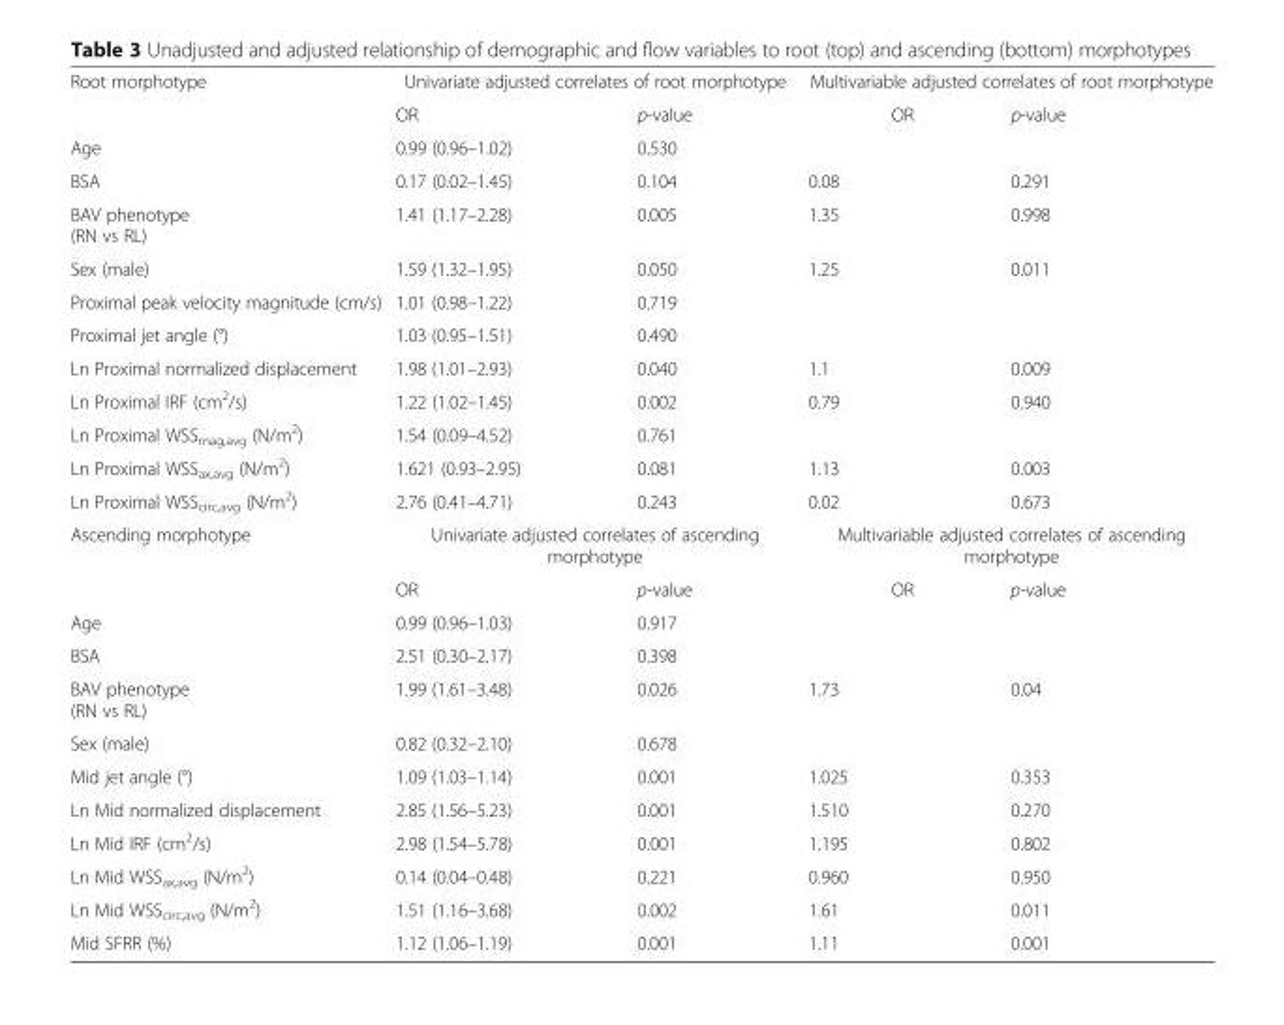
<table><tbody><tr><td rowspan="2">Root morphotype</td><td colspan="2">Univariate adjusted correlates of root morphotype</td><td colspan="2">Multivariable adjusted correlates of root morphotype</td></tr><tr><td>OR</td><td>p-value</td><td>OR</td><td>p-value</td></tr><tr><td>Age</td><td>0.99 (0.96–1.02)</td><td>0.530</td><td></td><td></td></tr><tr><td>BSA</td><td>0.17 (0.02–1.45)</td><td>0.104</td><td>0.08</td><td>0.291</td></tr><tr><td>BAV phenotype (RN vs RL)</td><td>1.41 (1.17–2.28)</td><td>0.005</td><td>1.35</td><td>0.998</td></tr><tr><td>Sex (male)</td><td>1.59 (1.32–1.95)</td><td>0.050</td><td>1.25</td><td>0.011</td></tr><tr><td>Proximal peak velocity magnitude (cm/s)</td><td>1.01 (0.98–1.22)</td><td>0.719</td><td></td><td></td></tr><tr><td>Proximal jet angle (°)</td><td>1.03 (0.95–1.51)</td><td>0.490</td><td></td><td></td></tr><tr><td>Ln Proximal normalized displacement</td><td>1.98 (1.01–2.93)</td><td>0.040</td><td>1.1</td><td>0.009</td></tr><tr><td>Ln Proximal IRF (cm<sup>2</sup>/s)</td><td>1.22 (1.02–1.45)</td><td>0.002</td><td>0.79</td><td>0.940</td></tr><tr><td>Ln Proximal WSS<sub>mag,avg</sub> (N/m<sup>2</sup>)</td><td>1.54 (0.09–4.52)</td><td>0.761</td><td></td><td></td></tr><tr><td>Ln Proximal WSS<sub>ax,avg</sub> (N/m<sup>2</sup>)</td><td>1.621 (0.93–2.95)</td><td>0.081</td><td>1.13</td><td>0.003</td></tr><tr><td>Ln Proximal WSS<sub>circ,avg</sub> (N/m<sup>2</sup>)</td><td>2.76 (0.41–4.71)</td><td>0.243</td><td>0.02</td><td>0.673</td></tr><tr><td rowspan="2">Ascending morphotype</td><td colspan="2">Univariate adjusted correlates of ascending morphotype</td><td colspan="2">Multivariable adjusted correlates of ascending morphotype</td></tr><tr><td>OR</td><td>p-value</td><td>OR</td><td>p-value</td></tr><tr><td>Age</td><td>0.99 (0.96–1.03)</td><td>0.917</td><td></td><td></td></tr><tr><td>BSA</td><td>2.51 (0.30–2.17)</td><td>0.398</td><td></td><td></td></tr><tr><td>BAV phenotype (RN vs RL)</td><td>1.99 (1.61–3.48)</td><td>0.026</td><td>1.73</td><td>0.04</td></tr><tr><td>Sex (male)</td><td>0.82 (0.32–2.10)</td><td>0.678</td><td></td><td></td></tr><tr><td>Mid jet angle (°)</td><td>1.09 (1.03–1.14)</td><td>0.001</td><td>1.025</td><td>0.353</td></tr><tr><td>Ln Mid normalized displacement</td><td>2.85 (1.56–5.23)</td><td>0.001</td><td>1.510</td><td>0.270</td></tr><tr><td>Ln Mid IRF (cm<sup>2</sup>/s)</td><td>2.98 (1.54–5.78)</td><td>0.001</td><td>1.195</td><td>0.802</td></tr><tr><td>Ln Mid WSS<sub>ax,avg</sub> (N/m<sup>2</sup>)</td><td>0.14 (0.04–0.48)</td><td>0.221</td><td>0.960</td><td>0.950</td></tr><tr><td>Ln Mid WSS<sub>circ,avg</sub> (N/m<sup>2</sup>)</td><td>1.51 (1.16–3.68)</td><td>0.002</td><td>1.61</td><td>0.011</td></tr><tr><td>Mid SFRR (%)</td><td>1.12 (1.06–1.19)</td><td>0.001</td><td>1.11</td><td>0.001</td></tr></tbody></table>